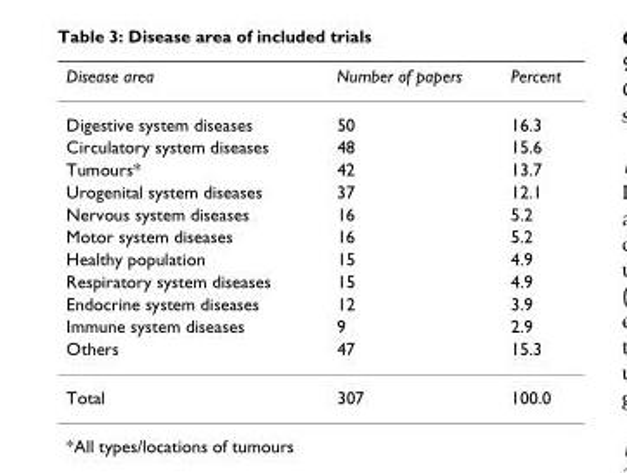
<table><thead><tr><td>Disease area</td><td>Number of papers</td><td>Percent</td></tr></thead><tbody><tr><td>Digestive system diseases</td><td>50</td><td>16.3</td></tr><tr><td>Circulatory system diseases</td><td>48</td><td>15.6</td></tr><tr><td>Tumours*</td><td>42</td><td>13.7</td></tr><tr><td>Urogenital system diseases</td><td>37</td><td>12.1</td></tr><tr><td>Nervous system diseases</td><td>16</td><td>5.2</td></tr><tr><td>Motor system diseases</td><td>16</td><td>5.2</td></tr><tr><td>Healthy population</td><td>15</td><td>4.9</td></tr><tr><td>Respiratory system diseases</td><td>15</td><td>4.9</td></tr><tr><td>Endocrine system diseases</td><td>12</td><td>3.9</td></tr><tr><td>Immune system diseases</td><td>9</td><td>2.9</td></tr><tr><td>Others</td><td>47</td><td>15.3</td></tr><tr><td>Total</td><td>307</td><td>100.0</td></tr></tbody></table>